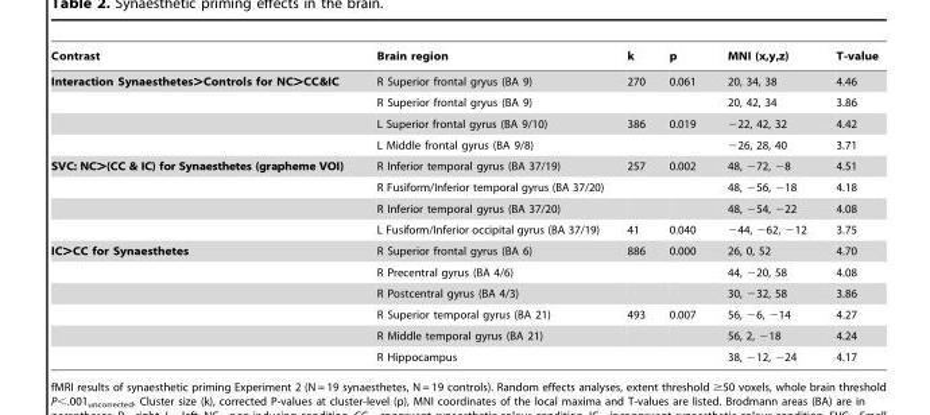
<table><thead><tr><td>Contrast</td><td>Brain region</td><td>k</td><td>p</td><td>MNI (x,y,z)</td><td>T-value</td></tr></thead><tbody><tr><td rowspan="4">Interaction Synaesthetes&gt;Controls for NC&gt;CC&amp;IC</td><td>R Superior frontal gryus (BA 9)</td><td>270</td><td>0.061</td><td>20, 34, 38</td><td>4.46</td></tr><tr><td>R Superior frontal gryus (BA 9)</td><td></td><td></td><td>20, 42, 34</td><td>3.86</td></tr><tr><td>L Superior frontal gyrus (BA 9/10)</td><td>386</td><td>0.019</td><td>−22, 42, 32</td><td>4.42</td></tr><tr><td>L Middle frontal gyrus (BA 9/8)</td><td></td><td></td><td>−26, 28, 40</td><td>3.71</td></tr><tr><td rowspan="4">SVC: NC&gt;(CC &amp; IC) for Synaesthetes (grapheme VOI)</td><td>R Inferior temporal gyrus (BA 37/19)</td><td>257</td><td>0.002</td><td>48, −72, −8</td><td>4.51</td></tr><tr><td>R Fusiform/Inferior temporal gyrus (BA 37/20)</td><td></td><td></td><td>48, −56, −18</td><td>4.18</td></tr><tr><td>R Inferior temporal gyrus (BA 37/20)</td><td></td><td></td><td>48, −54, −22</td><td>4.08</td></tr><tr><td>L Fusiform/Inferior occipital gyrus (BA 37/19)</td><td>41</td><td>0.040</td><td>−44, −62, −12</td><td>3.75</td></tr><tr><td rowspan="6">IC&gt;CC for Synaesthetes</td><td>R Superior frontal gyrus (BA 6)</td><td>886</td><td>0.000</td><td>26, 0, 52</td><td>4.70</td></tr><tr><td>R Precentral gyrus (BA 4/6)</td><td></td><td></td><td>44, −20, 58</td><td>4.08</td></tr><tr><td>R Postcentral gyrus (BA 4/3)</td><td></td><td></td><td>30, −32, 58</td><td>3.86</td></tr><tr><td>R Superior temporal gyrus (BA 21)</td><td>493</td><td>0.007</td><td>56, −6, −14</td><td>4.27</td></tr><tr><td>R Middle temporal gyrus (BA 21)</td><td></td><td></td><td>56, 2, −18</td><td>4.24</td></tr><tr><td>R Hippocampus</td><td></td><td></td><td>38, −12, −24</td><td>4.17</td></tr></tbody></table>